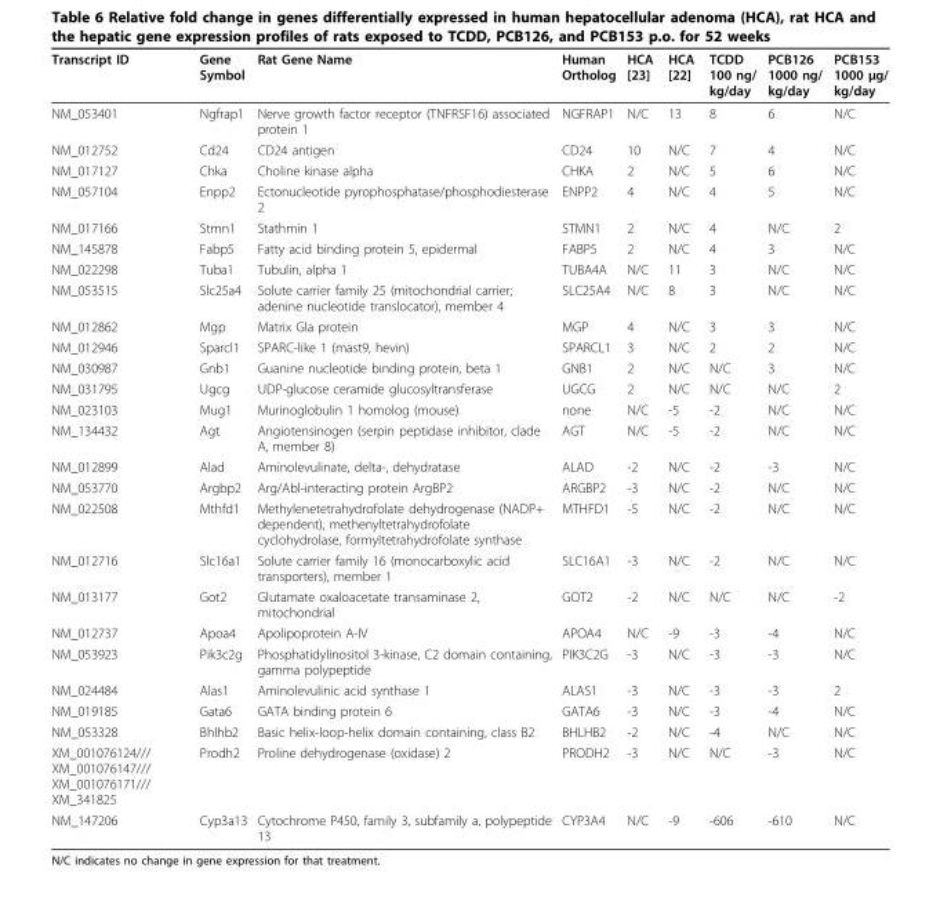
<table><thead><tr><td>Transcript ID</td><td>Gene Symbol</td><td>Rat Gene Name</td><td>Human Ortholog</td><td>HCA [23]</td><td>HCA [22]</td><td>TCDD 100 ng/ kg/day</td><td>PCB126 1000 ng/ kg/day</td><td>PCB153 1000 μg/ kg/day</td></tr></thead><tbody><tr><td>NM_053401</td><td>Ngfrap1</td><td>Nerve growth factor receptor (TNFRSF16) associated protein 1</td><td>NGFRAP1</td><td>N/C</td><td>13</td><td>8</td><td>6</td><td>N/C</td></tr><tr><td>NM_012752</td><td>Cd24</td><td>CD24 antigen</td><td>CD24</td><td>10</td><td>N/C</td><td>7</td><td>4</td><td>N/C</td></tr><tr><td>NM_017127</td><td>Chka</td><td>Choline kinase alpha</td><td>CHKA</td><td>2</td><td>N/C</td><td>5</td><td>6</td><td>N/C</td></tr><tr><td>NM_057104</td><td>Enpp2</td><td>Ectonucleotide pyrophosphatase/phosphodiesterase 2</td><td>ENPP2</td><td>4</td><td>N/C</td><td>4</td><td>5</td><td>N/C</td></tr><tr><td>NM_017166</td><td>Stmn1</td><td>Stathmin 1</td><td>STMN1</td><td>2</td><td>N/C</td><td>4</td><td>N/C</td><td>2</td></tr><tr><td>NM_145878</td><td>Fabp5</td><td>Fatty acid binding protein 5, epidermal</td><td>FABP5</td><td>2</td><td>N/C</td><td>4</td><td>3</td><td>N/C</td></tr><tr><td>NM_022298</td><td>Tuba1</td><td>Tubulin, alpha 1</td><td>TUBA4A</td><td>N/C</td><td>11</td><td>3</td><td>N/C</td><td>N/C</td></tr><tr><td>NM_053515</td><td>Slc25a4</td><td>Solute carrier family 25 (mitochondrial carrier; adenine nucleotide translocator), member 4</td><td>SLC25A4</td><td>N/C</td><td>8</td><td>3</td><td>N/C</td><td>N/C</td></tr><tr><td>NM_012862</td><td>Mgp</td><td>Matrix Gla protein</td><td>MGP</td><td>4</td><td>N/C</td><td>3</td><td>3</td><td>N/C</td></tr><tr><td>NM_012946</td><td>Sparcl1</td><td>SPARC-like 1 (mast9, hevin)</td><td>SPARCL1</td><td>3</td><td>N/C</td><td>2</td><td>2</td><td>N/C</td></tr><tr><td>NM_030987</td><td>Gnb1</td><td>Guanine nucleotide binding protein, beta 1</td><td>GNB1</td><td>2</td><td>N/C</td><td>N/C</td><td>3</td><td>N/C</td></tr><tr><td>NM_031795</td><td>Ugcg</td><td>UDP-glucose ceramide glucosyltransferase</td><td>UGCG</td><td>2</td><td>N/C</td><td>N/C</td><td>N/C</td><td>2</td></tr><tr><td>NM_023103</td><td>Mug1</td><td>Murinoglobulin 1 homolog (mouse)</td><td>none</td><td>N/C</td><td>-5</td><td>-2</td><td>N/C</td><td>N/C</td></tr><tr><td>NM_134432</td><td>Agt</td><td>Angiotensinogen (serpin peptidase inhibitor, clade A, member 8)</td><td>AGT</td><td>N/C</td><td>-5</td><td>-2</td><td>N/C</td><td>N/C</td></tr><tr><td>NM_012899</td><td>Alad</td><td>Aminolevulinate, delta-, dehydratase</td><td>ALAD</td><td>-2</td><td>N/C</td><td>-2</td><td>-3</td><td>N/C</td></tr><tr><td>NM_053770</td><td>Argbp2</td><td>Arg/Abl-interacting protein ArgBP2</td><td>ARGBP2</td><td>-3</td><td>N/C</td><td>-2</td><td>N/C</td><td>N/C</td></tr><tr><td>NM_022508</td><td>Mthfd1</td><td>Methylenetetrahydrofolate dehydrogenase (NADP+ dependent), methenyltetrahydrofolate cyclohydrolase, formyltetrahydrofolate synthase</td><td>MTHFD1</td><td>-5</td><td>N/C</td><td>-2</td><td>N/C</td><td>N/C</td></tr><tr><td>NM_012716</td><td>Slc16a1</td><td>Solute carrier family 16 (monocarboxylic acid transporters), member 1</td><td>SLC16A1</td><td>-3</td><td>N/C</td><td>-2</td><td>N/C</td><td>N/C</td></tr><tr><td>NM_013177</td><td>Got2</td><td>Glutamate oxaloacetate transaminase 2, mitochondrial</td><td>GOT2</td><td>-2</td><td>N/C</td><td>N/C</td><td>N/C</td><td>-2</td></tr><tr><td>NM_012737</td><td>Apoa4</td><td>Apolipoprotein A-IV</td><td>APOA4</td><td>N/C</td><td>-9</td><td>-3</td><td>-4</td><td>N/C</td></tr><tr><td>NM_053923</td><td>Pik3c2g</td><td>Phosphatidylinositol 3-kinase, C2 domain containing, gamma polypeptide</td><td>PIK3C2G</td><td>-3</td><td>N/C</td><td>-3</td><td>-3</td><td>N/C</td></tr><tr><td>NM_024484</td><td>Alas1</td><td>Aminolevulinic acid synthase 1</td><td>ALAS1</td><td>-3</td><td>N/C</td><td>-3</td><td>-3</td><td>2</td></tr><tr><td>NM_019185</td><td>Gata6</td><td>GATA binding protein 6</td><td>GATA6</td><td>-3</td><td>N/C</td><td>-3</td><td>-4</td><td>N/C</td></tr><tr><td>NM_053328</td><td>Bhlhb2</td><td>Basic helix-loop-helix domain containing, class B2</td><td>BHLHB2</td><td>-2</td><td>N/C</td><td>-4</td><td>N/C</td><td>N/C</td></tr><tr><td>XM_001076124/// XM_001076147/// XM_001076171/// XM_341825</td><td>Prodh2</td><td>Proline dehydrogenase (oxidase) 2</td><td>PRODH2</td><td>-3</td><td>N/C</td><td>N/C</td><td>-3</td><td>N/C</td></tr><tr><td>NM_147206</td><td>Cyp3a13</td><td>Cytochrome P450, family 3, subfamily a, polypeptide 13</td><td>CYP3A4</td><td>N/C</td><td>-9</td><td>-606</td><td>-610</td><td>N/C</td></tr></tbody></table>